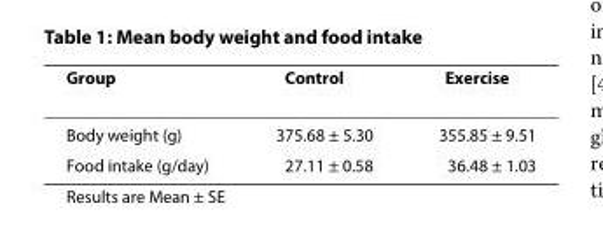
<table><thead><tr><td>Group</td><td>Control</td><td>Exercise</td></tr></thead><tbody><tr><td>Body weight (g)</td><td>375.68 ± 5.30</td><td>355.85 ± 9.51</td></tr><tr><td>Food intake (g/day)</td><td>27.11 ± 0.58</td><td>36.48 ± 1.03</td></tr></tbody></table>